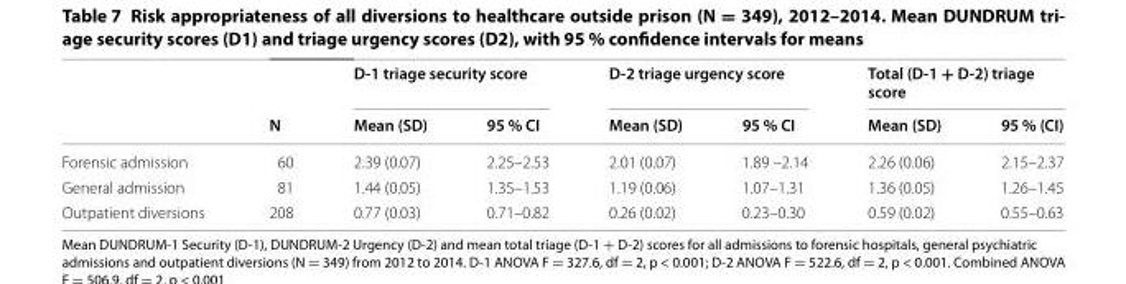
<table><thead><tr><td rowspan="2"></td><td rowspan="2">N</td><td colspan="2">D‑1 triage security score</td><td colspan="2">D‑2 triage urgency score</td><td colspan="2">Total (D‑1 + D‑2) triage score</td></tr><tr><td>Mean (SD)</td><td>95 % CI</td><td>Mean (SD)</td><td>95 % CI</td><td>Mean (SD)</td><td>95 % (CI)</td></tr></thead><tbody><tr><td>Forensic admission</td><td>60</td><td>2.39 (0.07)</td><td>2.25–2.53</td><td>2.01 (0.07)</td><td>1.89 –2.14</td><td>2.26 (0.06)</td><td>2.15–2.37</td></tr><tr><td>General admission</td><td>81</td><td>1.44 (0.05)</td><td>1.35–1.53</td><td>1.19 (0.06)</td><td>1.07–1.31</td><td>1.36 (0.05)</td><td>1.26–1.45</td></tr><tr><td>Outpatient diversions</td><td>208</td><td>0.77 (0.03)</td><td>0.71–0.82</td><td>0.26 (0.02)</td><td>0.23–0.30</td><td>0.59 (0.02)</td><td>0.55–0.63</td></tr></tbody></table>